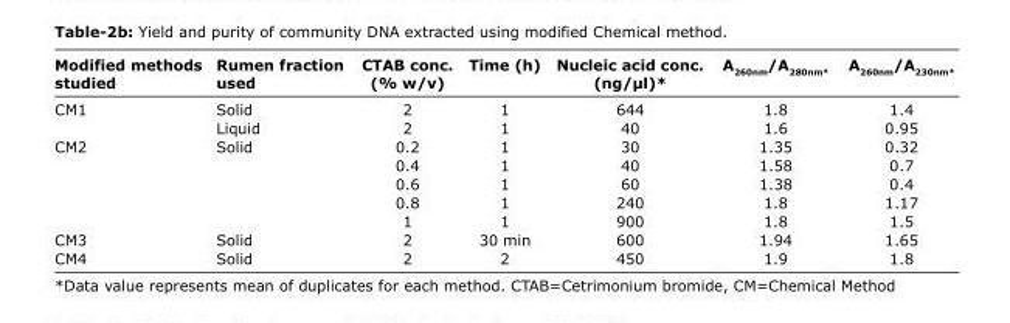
<table><thead><tr><td>Modified methods studied</td><td>Rumen fraction used</td><td>CTAB conc. (% w/v)</td><td>Time (h)</td><td>Nucleic acid conc. (ng/µl)*</td><td>A<sub>260nm</sub>/A<sub>280nm*</sub></td><td>A<sub>260nm</sub>/A<sub>230nm*</sub></td></tr></thead><tbody><tr><td rowspan="2">CM1</td><td>Solid</td><td>2</td><td>1</td><td>644</td><td>1.8</td><td>1.4</td></tr><tr><td>Liquid</td><td>2</td><td>1</td><td>40</td><td>1.6</td><td>0.95</td></tr><tr><td rowspan="5">CM2</td><td>Solid</td><td>0.2</td><td>1</td><td>30</td><td>1.35</td><td>0.32</td></tr><tr><td></td><td>0.4</td><td>1</td><td>40</td><td>1.58</td><td>0.7</td></tr><tr><td></td><td>0.6</td><td>1</td><td>60</td><td>1.38</td><td>0.4</td></tr><tr><td></td><td>0.8</td><td>1</td><td>240</td><td>1.8</td><td>1.17</td></tr><tr><td></td><td>1</td><td>1</td><td>900</td><td>1.8</td><td>1.5</td></tr><tr><td>CM3</td><td>Solid</td><td>2</td><td>30 min</td><td>600</td><td>1.94</td><td>1.65</td></tr><tr><td>CM4</td><td>Solid</td><td>2</td><td>2</td><td>450</td><td>1.9</td><td>1.8</td></tr></tbody></table>